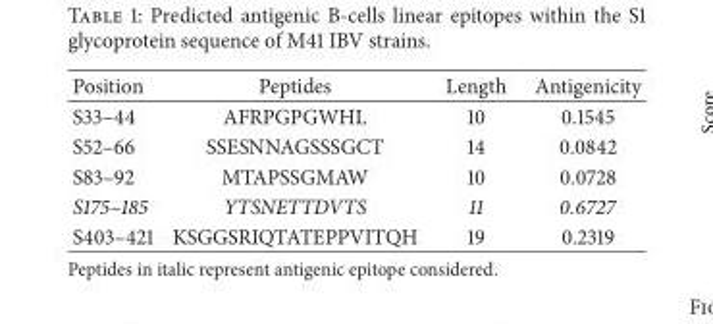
<table><thead><tr><td>Position</td><td>Peptides</td><td>Length</td><td>Antigenicity</td></tr></thead><tbody><tr><td>S33–44</td><td>AFRPGPGWHL</td><td>10</td><td>0.1545</td></tr><tr><td>S52–66</td><td>SSESNNAGSSSGCT</td><td>14</td><td>0.0842</td></tr><tr><td>S83–92</td><td>MTAPSSGMAW</td><td>10</td><td>0.0728</td></tr><tr><td>S175–185</td><td>YTSNETTDVTS</td><td>11</td><td>0.6727</td></tr><tr><td>S403–421</td><td>KSGGSRIQTATEPPVITQH</td><td>19</td><td>0.2319</td></tr></tbody></table>